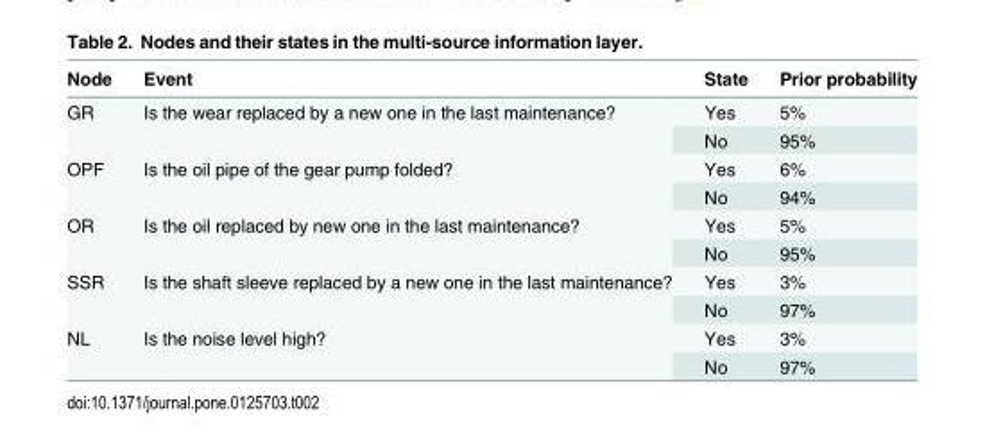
<table><thead><tr><td>Node</td><td>Event</td><td>State</td><td>Prior probability</td></tr></thead><tbody><tr><td rowspan="2">GR</td><td rowspan="2">Is the wear replaced by a new one in the last maintenance?</td><td>Yes</td><td>5%</td></tr><tr><td>No</td><td>95%</td></tr><tr><td rowspan="2">OPF</td><td rowspan="2">Is the oil pipe of the gear pump folded?</td><td>Yes</td><td>6%</td></tr><tr><td>No</td><td>94%</td></tr><tr><td rowspan="2">OR</td><td rowspan="2">Is the oil replaced by new one in the last maintenance?</td><td>Yes</td><td>5%</td></tr><tr><td>No</td><td>95%</td></tr><tr><td rowspan="2">SSR</td><td rowspan="2">Is the shaft sleeve replaced by a new one in the last maintenance?</td><td>Yes</td><td>3%</td></tr><tr><td>No</td><td>97%</td></tr><tr><td rowspan="2">NL</td><td rowspan="2">Is the noise level high?</td><td>Yes</td><td>3%</td></tr><tr><td>No</td><td>97%</td></tr></tbody></table>